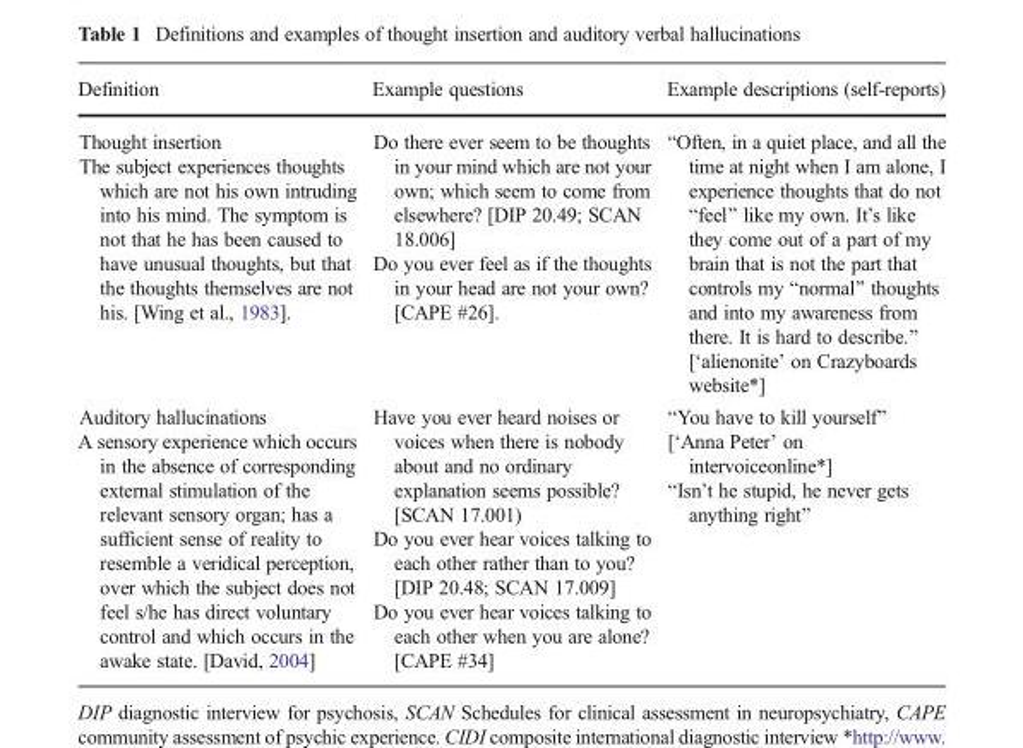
<table><thead><tr><td>Definition</td><td>Example questions</td><td>Example descriptions (self-reports)</td></tr></thead><tbody><tr><td>Thought insertion The subject experiences thoughts which are not his own intruding into his mind. The symptom is not that he has been caused to have unusual thoughts, but that the thoughts themselves are not his. [Wing et al., 1983].</td><td>Do there ever seem to be thoughts in your mind which are not your own; which seem to come from elsewhere? [DIP 20.49; SCAN 18.006] Do you ever feel as if the thoughts in your head are not your own? [CAPE #26].</td><td>“Often, in a quiet place, and all the time at night when I am alone, I experience thoughts that do not “feel” like my own. It’s like they come out of a part of my brain that is not the part that controls my “normal” thoughts and into my awareness from there. It is hard to describe.” [‘alienonite’ on Crazyboards website*]</td></tr><tr><td>Auditory hallucinations A sensory experience which occurs in the absence of corresponding external stimulation of the relevant sensory organ; has a sufficient sense of reality to resemble a veridical perception, over which the subject does not feel s/he has direct voluntary control and which occurs in the awake state. [David, 2004]</td><td>Have you ever heard noises or voices when there is nobody about and no ordinary explanation seems possible? [SCAN 17.001) Do you ever hear voices talking to each other rather than to you? [DIP 20.48; SCAN 17.009] Do you ever hear voices talking to each other when you are alone? [CAPE #34]</td><td>“You have to kill yourself” [‘Anna Peter’ on intervoiceonline*] “Isn’t he stupid, he never gets anything right”</td></tr></tbody></table>